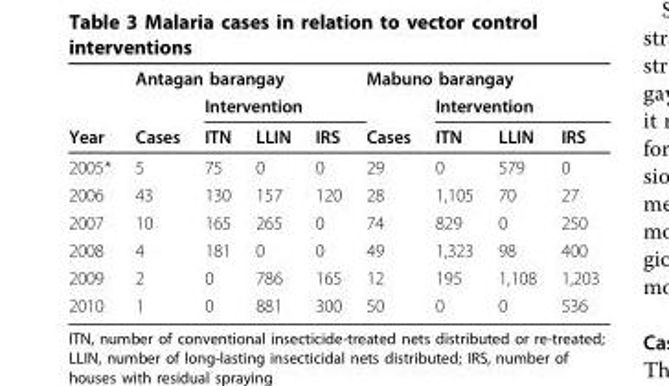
<table><thead><tr><td rowspan="3">Year</td><td colspan="4">Antagan barangay</td><td colspan="4">Mabuno barangay</td></tr><tr><td rowspan="2">Cases</td><td colspan="3">Intervention</td><td rowspan="2">Cases</td><td colspan="3">Intervention</td></tr><tr><td>ITN</td><td>LLIN</td><td>IRS</td><td>ITN</td><td>LLIN</td><td>IRS</td></tr></thead><tbody><tr><td>2005*</td><td>5</td><td>75</td><td>0</td><td>0</td><td>29</td><td>0</td><td>579</td><td>0</td></tr><tr><td>2006</td><td>43</td><td>130</td><td>157</td><td>120</td><td>28</td><td>1,105</td><td>70</td><td>27</td></tr><tr><td>2007</td><td>10</td><td>165</td><td>265</td><td>0</td><td>74</td><td>829</td><td>0</td><td>250</td></tr><tr><td>2008</td><td>4</td><td>181</td><td>0</td><td>0</td><td>49</td><td>1,323</td><td>98</td><td>400</td></tr><tr><td>2009</td><td>2</td><td>0</td><td>786</td><td>165</td><td>12</td><td>195</td><td>1,108</td><td>1,203</td></tr><tr><td>2010</td><td>1</td><td>0</td><td>881</td><td>300</td><td>50</td><td>0</td><td>0</td><td>536</td></tr></tbody></table>